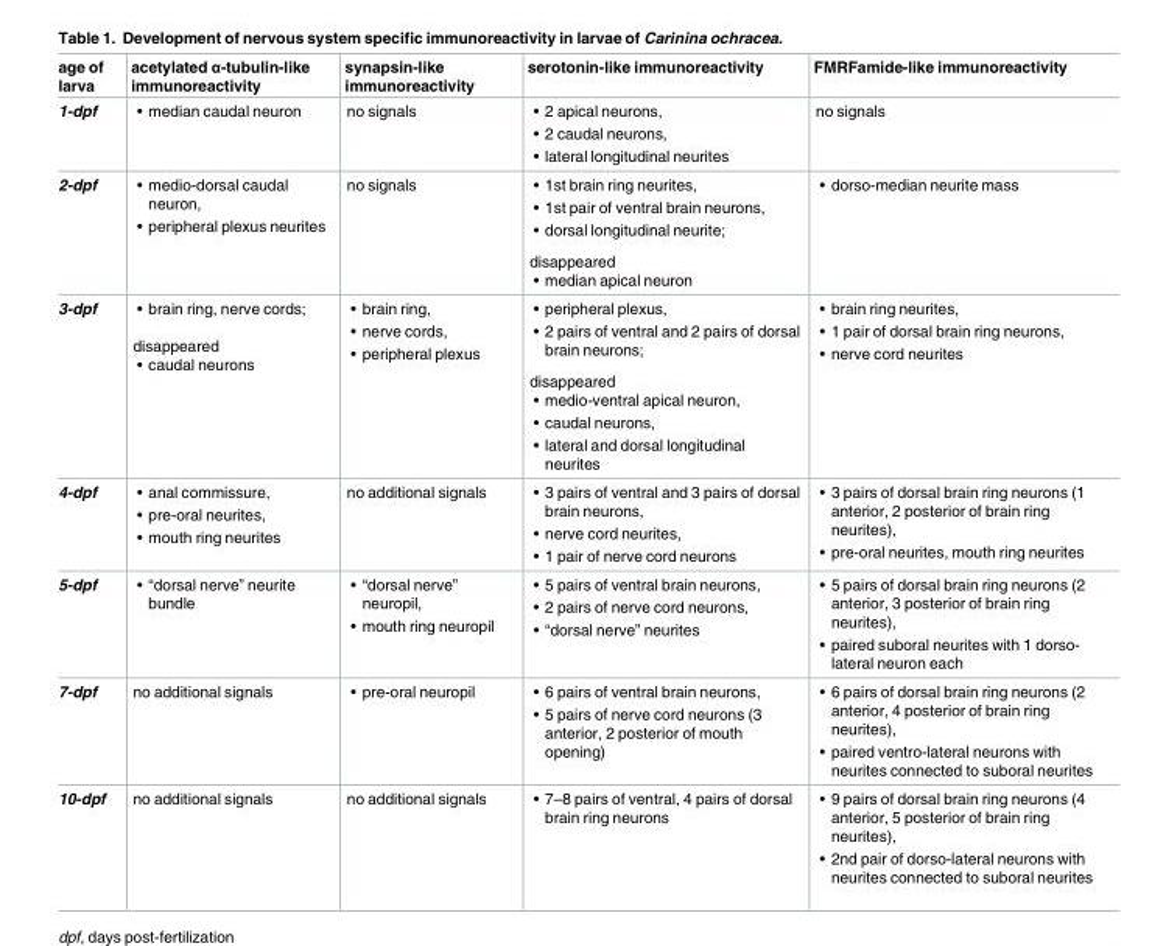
<table><thead><tr><td>age of larva</td><td>acetylated α-tubulin-like immunoreactivity</td><td>synapsin-like immunoreactivity</td><td>serotonin-like immunoreactivity</td><td>FMRFamide-like immunoreactivity</td></tr></thead><tbody><tr><td>1-dpf</td><td>• median caudal neuron</td><td>no signals</td><td>• 2 apical neurons, • 2 caudal neurons, • lateral longitudinal neurites</td><td>no signals</td></tr><tr><td>2-dpf</td><td>• medio-dorsal caudal neuron, • peripheral plexus neurites</td><td>no signals</td><td>• 1st brain ring neurites, • 1st pair of ventral brain neurons, • dorsal longitudinal neurite; disappeared • median apical neuron</td><td>• dorso-median neurite mass</td></tr><tr><td>3-dpf</td><td>• brain ring, nerve cords; disappeared • caudal neurons</td><td>• brain ring, • nerve cords, • peripheral plexus</td><td>• peripheral plexus, • 2 pairs of ventral and 2 pairs of dorsal brain neurons; disappeared • medio-ventral apical neuron, • caudal neurons, • lateral and dorsal longitudinal neurites</td><td>• brain ring neurites, • 1 pair of dorsal brain ring neurons, • nerve cord neurites</td></tr><tr><td>4-dpf</td><td>• anal commissure, • pre-oral neurites, • mouth ring neurites</td><td>no additional signals</td><td>• 3 pairs of ventral and 3 pairs of dorsal brain neurons, • nerve cord neurites, • 1 pair of nerve cord neurons</td><td>• 3 pairs of dorsal brain ring neurons (1 anterior, 2 posterior of brain ring neurites), • pre-oral neurites, mouth ring neurites</td></tr><tr><td>5-dpf</td><td>• “dorsal nerve” neurite bundle</td><td>• “dorsal nerve” neuropil, • mouth ring neuropil</td><td>• 5 pairs of ventral brain neurons, • 2 pairs of nerve cord neurons, • “dorsal nerve” neurites</td><td>• 5 pairs of dorsal brain ring neurons (2 anterior, 3 posterior of brain ring neurites), • paired suboral neurites with 1 dorso- lateral neuron each</td></tr><tr><td>7-dpf</td><td>no additional signals</td><td>• pre-oral neuropil</td><td>• 6 pairs of ventral brain neurons, • 5 pairs of nerve cord neurons (3 anterior, 2 posterior of mouth opening)</td><td>• 6 pairs of dorsal brain ring neurons (2 anterior, 4 posterior of brain ring neurites), • paired ventro-lateral neurons with neurites connected to suboral neurites</td></tr><tr><td>10-dpf</td><td>no additional signals</td><td>no additional signals</td><td>• 7–8 pairs of ventral, 4 pairs of dorsal brain ring neurons</td><td>• 9 pairs of dorsal brain ring neurons (4 anterior, 5 posterior of brain ring neurites), • 2nd pair of dorso-lateral neurons with neurites connected to suboral neurites</td></tr></tbody></table>